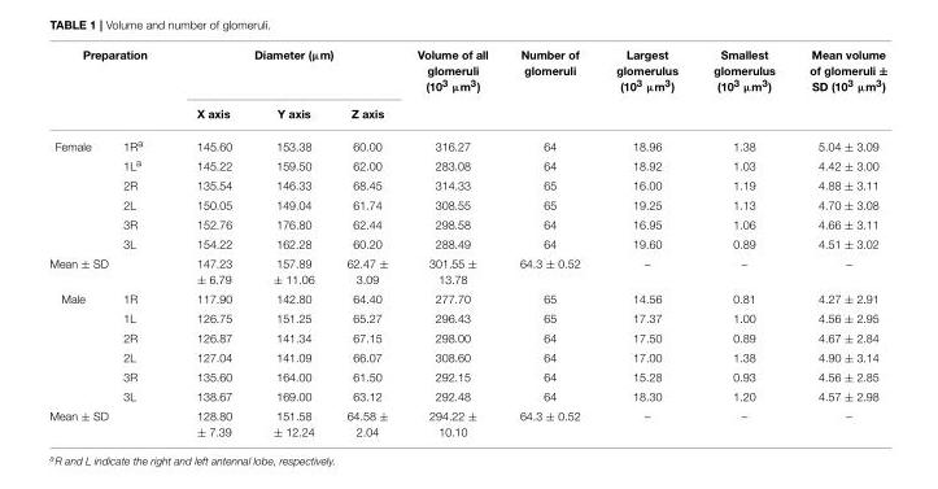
<table><thead><tr><td colspan="2">Preparation</td><td colspan="3">Diameter (µm)</td><td rowspan="2">Volume of all glomeruli (10<sup>3</sup> µm<sup>3</sup>)</td><td rowspan="2">Number of glomeruli</td><td rowspan="2">Largest glomerulus (10<sup>3</sup> µm<sup>3</sup>)</td><td rowspan="2">Smallest glomerulus (10<sup>3</sup> µm<sup>3</sup>)</td><td rowspan="2">Mean volume of glomeruli ± SD (10<sup>3</sup> µm<sup>3</sup>)</td></tr><tr><td></td><td></td><td>X axis</td><td>Y axis</td><td>Z axis</td></tr></thead><tbody><tr><td rowspan="6">Female</td><td>1R<sup>a</sup></td><td>145.60</td><td>153.38</td><td>60.00</td><td>316.27</td><td>64</td><td>18.96</td><td>1.38</td><td>5.04 ± 3.09</td></tr><tr><td>1L<sup>a</sup></td><td>145.22</td><td>159.50</td><td>62.00</td><td>283.08</td><td>64</td><td>18.92</td><td>1.03</td><td>4.42 ± 3.00</td></tr><tr><td>2R</td><td>135.54</td><td>146.33</td><td>68.45</td><td>314.33</td><td>65</td><td>16.00</td><td>1.19</td><td>4.88 ± 3.11</td></tr><tr><td>2L</td><td>150.05</td><td>149.04</td><td>61.74</td><td>308.55</td><td>65</td><td>19.25</td><td>1.13</td><td>4.70 ± 3.08</td></tr><tr><td>3R</td><td>152.76</td><td>176.80</td><td>62.44</td><td>298.58</td><td>64</td><td>16.95</td><td>1.06</td><td>4.66 ± 3.11</td></tr><tr><td>3L</td><td>154.22</td><td>162.28</td><td>60.20</td><td>288.49</td><td>64</td><td>19.60</td><td>0.89</td><td>4.51 ± 3.02</td></tr><tr><td colspan="2">Mean ± SD</td><td>147.23 ± 6.79</td><td>157.89 ± 11.06</td><td>62.47 ± 3.09</td><td>301.55 ± 13.78</td><td>64.3 ± 0.52</td><td>–</td><td>–</td><td>–</td></tr><tr><td rowspan="6">Male</td><td>1R</td><td>117.90</td><td>142.80</td><td>64.40</td><td>277.70</td><td>65</td><td>14.56</td><td>0.81</td><td>4.27 ± 2.91</td></tr><tr><td>1L</td><td>126.75</td><td>151.25</td><td>65.27</td><td>296.43</td><td>65</td><td>17.37</td><td>1.00</td><td>4.56 ± 2.95</td></tr><tr><td>2R</td><td>126.87</td><td>141.34</td><td>67.15</td><td>298.00</td><td>64</td><td>17.50</td><td>0.89</td><td>4.67 ± 2.84</td></tr><tr><td>2L</td><td>127.04</td><td>141.09</td><td>66.07</td><td>308.60</td><td>64</td><td>17.00</td><td>1.38</td><td>4.90 ± 3.14</td></tr><tr><td>3R</td><td>135.60</td><td>164.00</td><td>61.50</td><td>292.15</td><td>64</td><td>15.28</td><td>0.93</td><td>4.56 ± 2.85</td></tr><tr><td>3L</td><td>138.67</td><td>169.00</td><td>63.12</td><td>292.48</td><td>64</td><td>18.30</td><td>1.20</td><td>4.57 ± 2.98</td></tr><tr><td colspan="2">Mean ± SD</td><td>128.80 ± 7.39</td><td>151.58 ± 12.24</td><td>64.58 ± 2.04</td><td>294.22 ± 10.10</td><td>64.3 ± 0.52</td><td>–</td><td>–</td><td>–</td></tr></tbody></table>